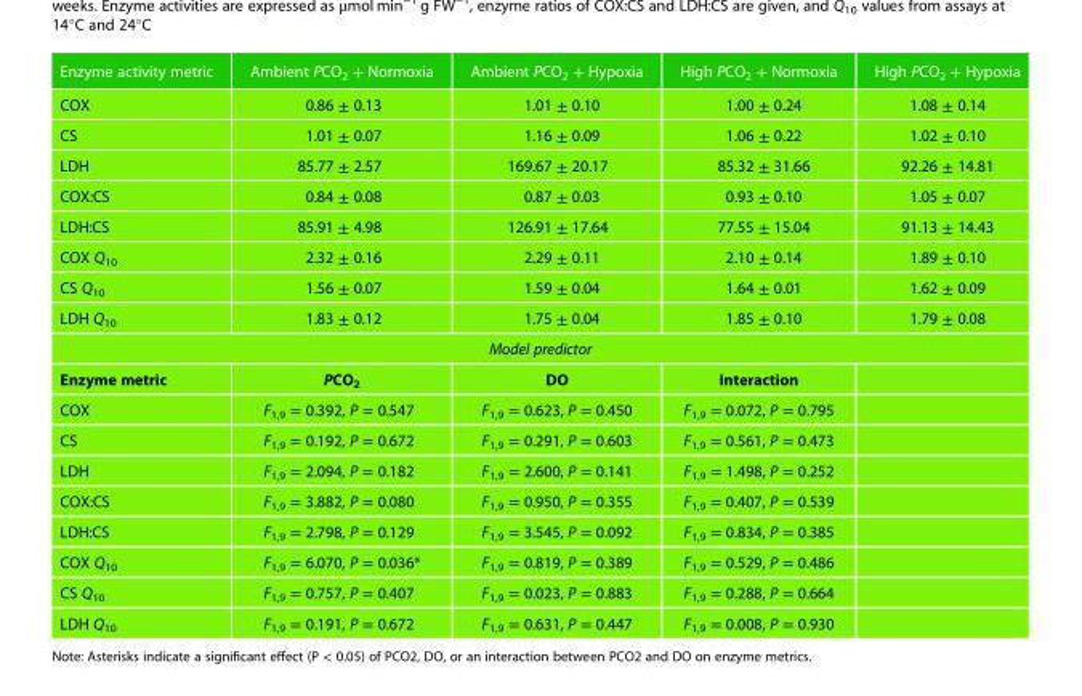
<table><thead><tr><td>Enzyme activity metric</td><td>Ambient PCO<sub>2</sub> + Normoxia</td><td>Ambient PCO<sub>2</sub> + Hypoxia</td><td>High PCO<sub>2</sub> + Normoxia</td><td>High PCO<sub>2</sub> + Hypoxia</td></tr></thead><tbody><tr><td>COX</td><td>0.86 ± 0.13</td><td>1.01 ± 0.10</td><td>1.00 ± 0.24</td><td>1.08 ± 0.14</td></tr><tr><td>CS</td><td>1.01 ± 0.07</td><td>1.16 ± 0.09</td><td>1.06 ± 0.22</td><td>1.02 ± 0.10</td></tr><tr><td>LDH</td><td>85.77 ± 2.57</td><td>169.67 ± 20.17</td><td>85.32 ± 31.66</td><td>92.26 ± 14.81</td></tr><tr><td>COX:CS</td><td>0.84 ± 0.08</td><td>0.87 ± 0.03</td><td>0.93 ± 0.10</td><td>1.05 ± 0.07</td></tr><tr><td>LDH:CS</td><td>85.91 ± 4.98</td><td>126.91 ± 17.64</td><td>77.55 ± 15.04</td><td>91.13 ± 14.43</td></tr><tr><td>COX Q<sub>10</sub></td><td>2.32 ± 0.16</td><td>2.29 ± 0.11</td><td>2.10 ± 0.14</td><td>1.89 ± 0.10</td></tr><tr><td>CS Q<sub>10</sub></td><td>1.56 ± 0.07</td><td>1.59 ± 0.04</td><td>1.64 ± 0.01</td><td>1.62 ± 0.09</td></tr><tr><td>LDH Q<sub>10</sub></td><td>1.83 ± 0.12</td><td>1.75 ± 0.04</td><td>1.85 ± 0.10</td><td>1.79 ± 0.08</td></tr><tr><td colspan="5">Model predictor</td></tr><tr><td>Enzyme metric</td><td>PCO<sub>2</sub></td><td>DO</td><td>Interaction</td><td></td></tr><tr><td>COX</td><td>F<sub>1,9</sub> = 0.392, P = 0.547</td><td>F<sub>1,9</sub> = 0.623, P = 0.450</td><td>F<sub>1,9</sub> = 0.072, P = 0.795</td><td></td></tr><tr><td>CS</td><td>F<sub>1,9</sub> = 0.192, P = 0.672</td><td>F<sub>1,9</sub> = 0.291, P = 0.603</td><td>F<sub>1,9</sub> = 0.561, P = 0.473</td><td></td></tr><tr><td>LDH</td><td>F<sub>1,9</sub> = 2.094, P = 0.182</td><td>F<sub>1,9</sub> = 2.600, P = 0.141</td><td>F<sub>1,9</sub> = 1.498, P = 0.252</td><td></td></tr><tr><td>COX:CS</td><td>F<sub>1,9</sub> = 3.882, P = 0.080</td><td>F<sub>1,9</sub> = 0.950, P = 0.355</td><td>F<sub>1,9</sub> = 0.407, P = 0.539</td><td></td></tr><tr><td>LDH:CS</td><td>F<sub>1,9</sub> = 2.798, P = 0.129</td><td>F<sub>1,9</sub> = 3.545, P = 0.092</td><td>F<sub>1,9</sub> = 0.834, P = 0.385</td><td></td></tr><tr><td>COX Q<sub>10</sub></td><td>F<sub>1,9</sub> = 6.070, P = 0.036*</td><td>F<sub>1,9</sub> = 0.819, P = 0.389</td><td>F<sub>1,9</sub> = 0.529, P = 0.486</td><td></td></tr><tr><td>CS Q<sub>10</sub></td><td>F<sub>1,9</sub> = 0.757, P = 0.407</td><td>F<sub>1,9</sub> = 0.023, P = 0.883</td><td>F<sub>1,9</sub> = 0.288, P = 0.664</td><td></td></tr><tr><td>LDH Q<sub>10</sub></td><td>F<sub>1,9</sub> = 0.191, P = 0.672</td><td>F<sub>1,9</sub> = 0.631, P = 0.447</td><td>F<sub>1,9</sub> = 0.008, P = 0.930</td><td></td></tr></tbody></table>